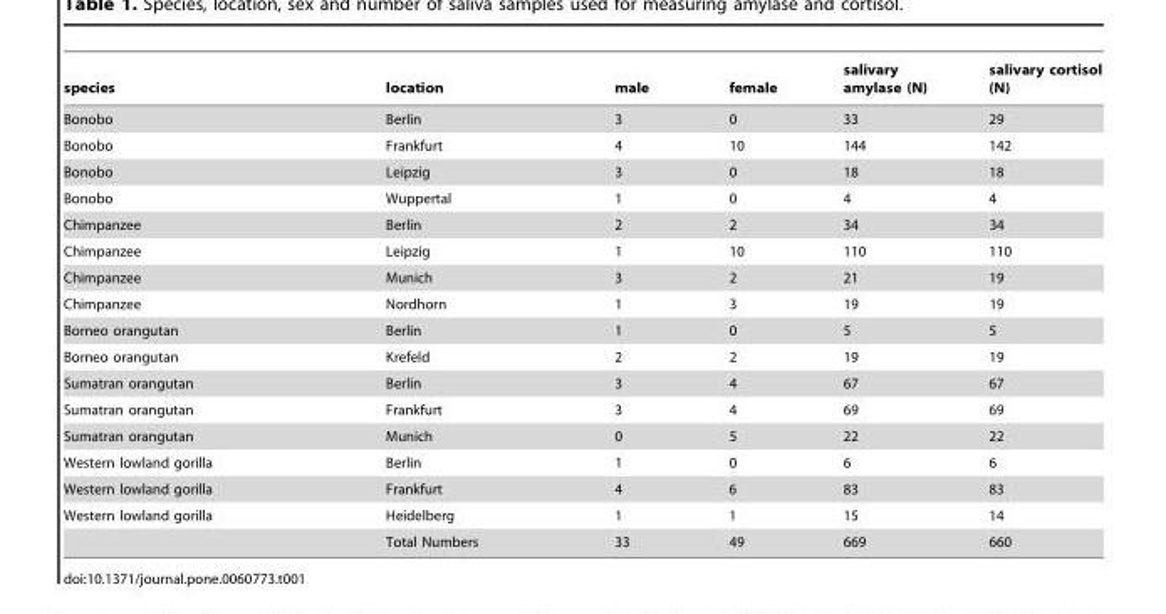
<table><thead><tr><td>species</td><td>location</td><td>male</td><td>female</td><td>salivary amylase (N)</td><td>salivary cortisol (N)</td></tr></thead><tbody><tr><td>Bonobo</td><td>Berlin</td><td>3</td><td>0</td><td>33</td><td>29</td></tr><tr><td>Bonobo</td><td>Frankfurt</td><td>4</td><td>10</td><td>144</td><td>142</td></tr><tr><td>Bonobo</td><td>Leipzig</td><td>3</td><td>0</td><td>18</td><td>18</td></tr><tr><td>Bonobo</td><td>Wuppertal</td><td>1</td><td>0</td><td>4</td><td>4</td></tr><tr><td>Chimpanzee</td><td>Berlin</td><td>2</td><td>2</td><td>34</td><td>34</td></tr><tr><td>Chimpanzee</td><td>Leipzig</td><td>1</td><td>10</td><td>110</td><td>110</td></tr><tr><td>Chimpanzee</td><td>Munich</td><td>3</td><td>2</td><td>21</td><td>19</td></tr><tr><td>Chimpanzee</td><td>Nordhorn</td><td>1</td><td>3</td><td>19</td><td>19</td></tr><tr><td>Borneo orangutan</td><td>Berlin</td><td>1</td><td>0</td><td>5</td><td>5</td></tr><tr><td>Borneo orangutan</td><td>Krefeld</td><td>2</td><td>2</td><td>19</td><td>19</td></tr><tr><td>Sumatran orangutan</td><td>Berlin</td><td>3</td><td>4</td><td>67</td><td>67</td></tr><tr><td>Sumatran orangutan</td><td>Frankfurt</td><td>3</td><td>4</td><td>69</td><td>69</td></tr><tr><td>Sumatran orangutan</td><td>Munich</td><td>0</td><td>5</td><td>22</td><td>22</td></tr><tr><td>Western lowland gorilla</td><td>Berlin</td><td>1</td><td>0</td><td>6</td><td>6</td></tr><tr><td>Western lowland gorilla</td><td>Frankfurt</td><td>4</td><td>6</td><td>83</td><td>83</td></tr><tr><td rowspan="2">Western lowland gorilla</td><td>Heidelberg</td><td>1</td><td>1</td><td>15</td><td>14</td></tr><tr><td>Total Numbers</td><td>33</td><td>49</td><td>669</td><td>660</td></tr></tbody></table>